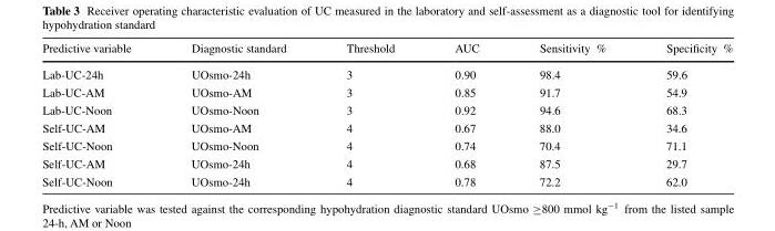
<table><thead><tr><td>Predictive variable</td><td>Diagnostic standard</td><td>Threshold</td><td>AUC</td><td>Sensitivity %</td><td>Specificity %</td></tr></thead><tbody><tr><td>Lab-UC-24h</td><td>UOsmo-24h</td><td>3</td><td>0.90</td><td>98.4</td><td>59.6</td></tr><tr><td>Lab-UC-AM</td><td>UOsmo-AM</td><td>3</td><td>0.85</td><td>91.7</td><td>54.9</td></tr><tr><td>Lab-UC-Noon</td><td>UOsmo-Noon</td><td>3</td><td>0.92</td><td>94.6</td><td>68.3</td></tr><tr><td>Self-UC-AM</td><td>UOsmo-AM</td><td>4</td><td>0.67</td><td>88.0</td><td>34.6</td></tr><tr><td>Self-UC-Noon</td><td>UOsmo-Noon</td><td>4</td><td>0.74</td><td>70.4</td><td>71.1</td></tr><tr><td>Self-UC-AM</td><td>UOsmo-24h</td><td>4</td><td>0.68</td><td>87.5</td><td>29.7</td></tr><tr><td>Self-UC-Noon</td><td>UOsmo-24h</td><td>4</td><td>0.78</td><td>72.2</td><td>62.0</td></tr></tbody></table>